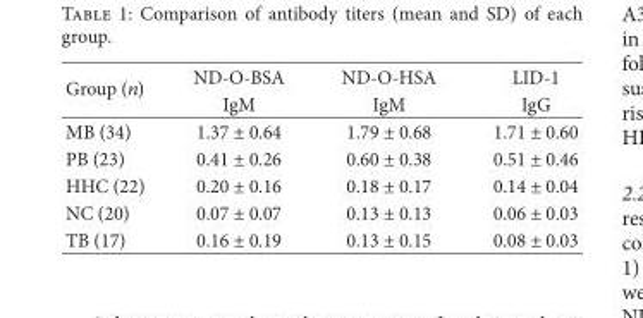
<table><thead><tr><td rowspan="2">Group (𝑛𝑛)</td><td rowspan="2">ND-O-BSA IgM</td><td rowspan="2">ND-O-HSA IgM</td><td rowspan="2">LID-1 IgG</td></tr><tr></tr></thead><tbody><tr><td>MB (34)</td><td>1.37 ± 0.64</td><td>1.79 ± 0.68</td><td>1.71 ± 0.60</td></tr><tr><td>PB (23)</td><td>0.41 ± 0.26</td><td>0.60 ± 0.38</td><td>0.51 ± 0.46</td></tr><tr><td>HHC (22)</td><td>0.20 ± 0.16</td><td>0.18 ± 0.17</td><td>0.14 ± 0.04</td></tr><tr><td>NC (20)</td><td>0.07 ± 0.07</td><td>0.13 ± 0.13</td><td>0.06 ± 0.03</td></tr><tr><td>TB (17)</td><td>0.16 ± 0.19</td><td>0.13 ± 0.15</td><td>0.08 ± 0.03</td></tr></tbody></table>